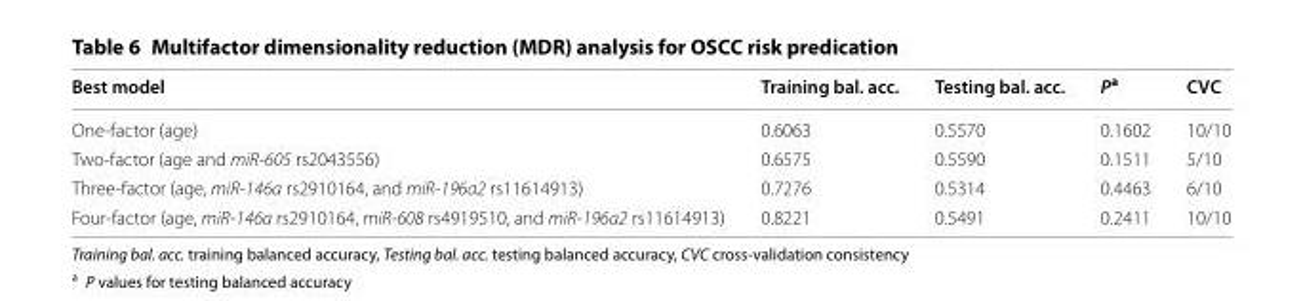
<table><thead><tr><td>Best model</td><td>Training bal. acc.</td><td>Testing bal. acc.</td><td>P<sup>a</sup></td><td>CVC</td></tr></thead><tbody><tr><td>One-factor (age)</td><td>0.6063</td><td>0.5570</td><td>0.1602</td><td>10/10</td></tr><tr><td>Two-factor (age and miR-605 rs2043556)</td><td>0.6575</td><td>0.5590</td><td>0.1511</td><td>5/10</td></tr><tr><td>Three-factor (age, miR-146a rs2910164, and miR-196a2 rs11614913)</td><td>0.7276</td><td>0.5314</td><td>0.4463</td><td>6/10</td></tr><tr><td>Four-factor (age, miR-146a rs2910164, miR-608 rs4919510, and miR-196a2 rs11614913)</td><td>0.8221</td><td>0.5491</td><td>0.2411</td><td>10/10</td></tr></tbody></table>